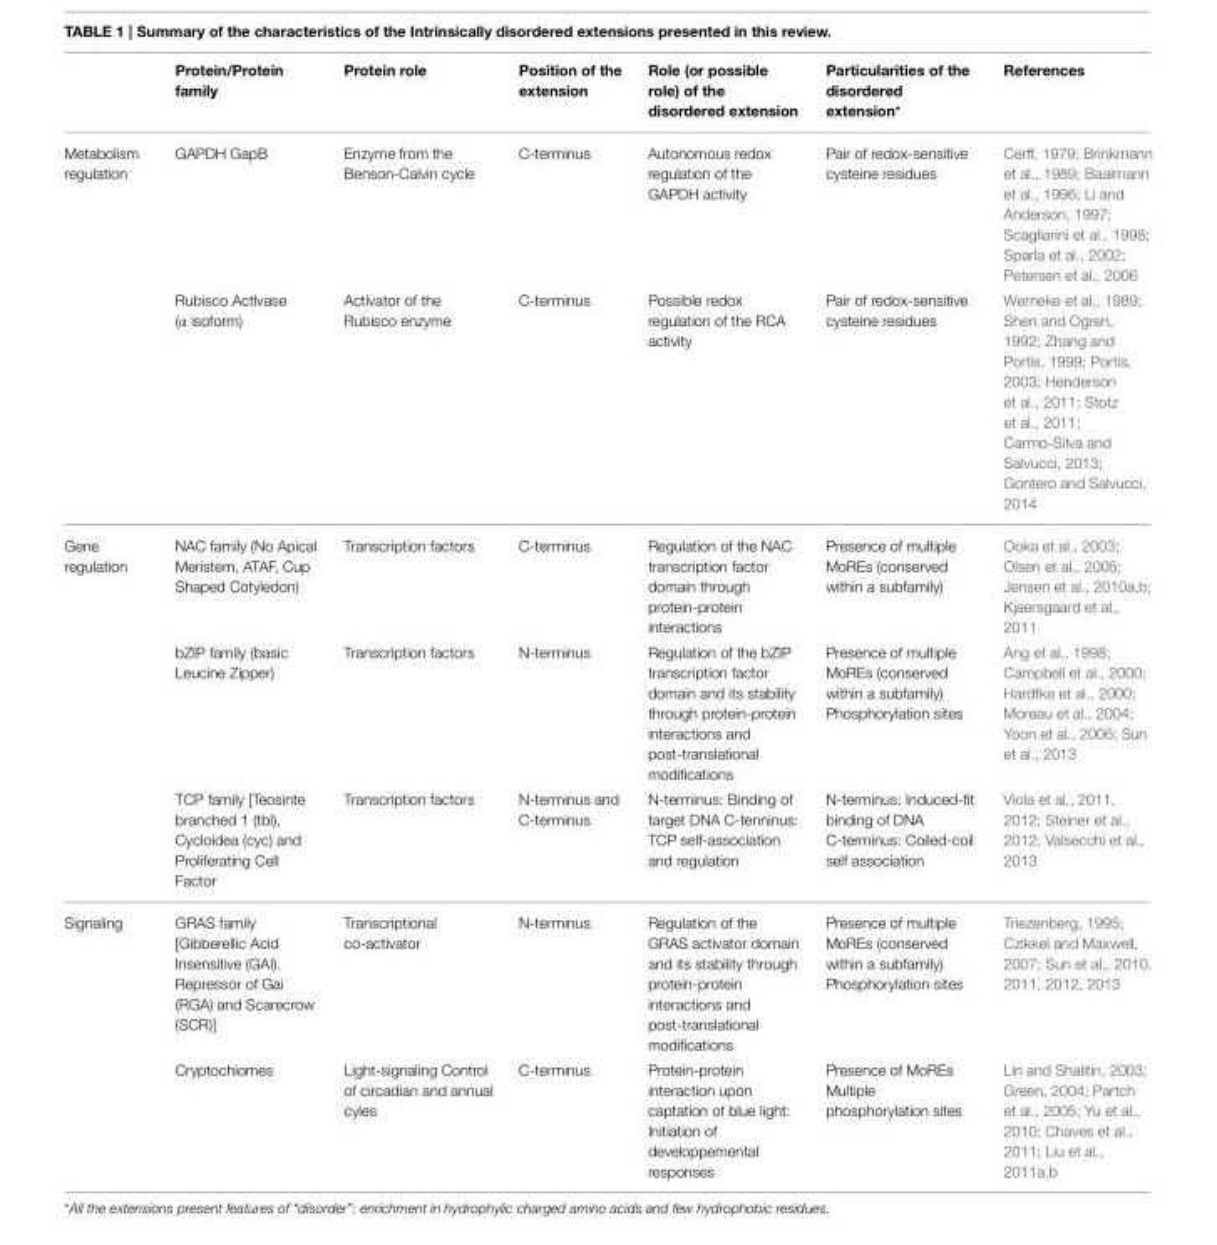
<table><thead><tr><td></td><td>Protein/Protein family</td><td>Protein role</td><td>Position of the extension</td><td>Role (or possible role) of the disordered extension</td><td>Particularities of the disordered extension*</td><td>References</td></tr></thead><tbody><tr><td rowspan="2">Metabolism regulation</td><td>GAPDH GapB</td><td>Enzyme from the Benson-Calvin cycle</td><td>C-terminus</td><td>Autonomous redox regulation of the GAPDH activity</td><td>Pair of redox-sensitive cysteine residues</td><td>Cerff, 1979; Brinkmann et al., 1989; Baalmann et al., 1996; Li and Anderson, 1997; Scagliarini et al., 1998; Sparla et al., 2002; Petersen et al., 2006</td></tr><tr><td>Rubisco Actlvase (α isoform)</td><td>Activator of the Rubisco enzyme</td><td>C-terminus</td><td>Possible redox regulation of the RCA activity</td><td>Pair of redox-sensitive cysteine residues</td><td>Werneke et al., 1989; Shen and Ogren, 1992; Zhang and Portis, 1999; Portis, 2003; Henderson et al., 2011; Stotz et al., 2011; Carmo-Silva and Salvucci, 2013; Gontero and Salvucci, 2014</td></tr><tr><td rowspan="3">Gene regulation</td><td>NAC family (No Apical Meristem, ATAF, Cup Shaped Cotyledon)</td><td>Transcription factors</td><td>C-terminus</td><td>Regulation of the NAC transcription factor domain through protein-protein interactions</td><td>Presence of multiple MoREs (conserved within a subfamily)</td><td>Ooka et al., 2003; Olsen et al., 2005; Jensen et al., 2010a,b; Kjaersgaard et al., 2011</td></tr><tr><td>bZIP family (basic Leucine Zipper)</td><td>Transcription factors</td><td>N-terminus</td><td>Regulation of the bZIP transcription factor domain and its stability through protein-protein interactions and post-translational modifications</td><td>Presence of multiple MoREs (conserved within a subfamily) Phosphorylation sites</td><td>Ang et al., 1998; Campbell et al., 2000; Hardtke et al., 2000; Moreau et al., 2004; Yoon et al., 2006; Sun et al., 2013</td></tr><tr><td>TCP family [Teosinte branched 1 (tbl), Cycloidea (cyc) and Proliferating Cell Factor</td><td>Transcription factors</td><td>N-terminus and C-terminus</td><td>N-terminus: Binding of target DNA C-tenninus: TCP self-association and regulation</td><td>N-terminus: Induced-fit binding of DNA C-terminus: Coiled-coil self association</td><td>Viola et al., 2011, 2012; Steiner et al., 2012; Valsecchi et al., 2013</td></tr><tr><td rowspan="2">Signaling</td><td>GRAS family [Gibberellic Acid Insensitive (GAI). Repressor of Gai (RGA) and Scarecrow (SCR)]</td><td>Transcriptional co-activator</td><td>N-terminus</td><td>Regulation of the GRAS activator domain and its stability through protein-protein interactions and post-translational modifications</td><td>Presence of multiple MoREs (conserved within a subfamily) Phosphorylation sites</td><td>Triezenberg, 1995; Czikkel and Maxwell, 2007; Sun et al., 2010, 2011, 2012, 2013</td></tr><tr><td>Cryptochiomes</td><td>Light-signaling Control of circadian and annual cyles</td><td>C-terminus</td><td>Protein-protein interaction upon captation of blue light: Initiation of developpemental responses</td><td>Presence of MoREs Multiple phosphorylation sites</td><td>Lin and Shalitin, 2003; Green, 2004; Partch et al., 2005; Yu et al., 2010; Chaves et al., 2011; Liu et al., 2011a,b</td></tr></tbody></table>